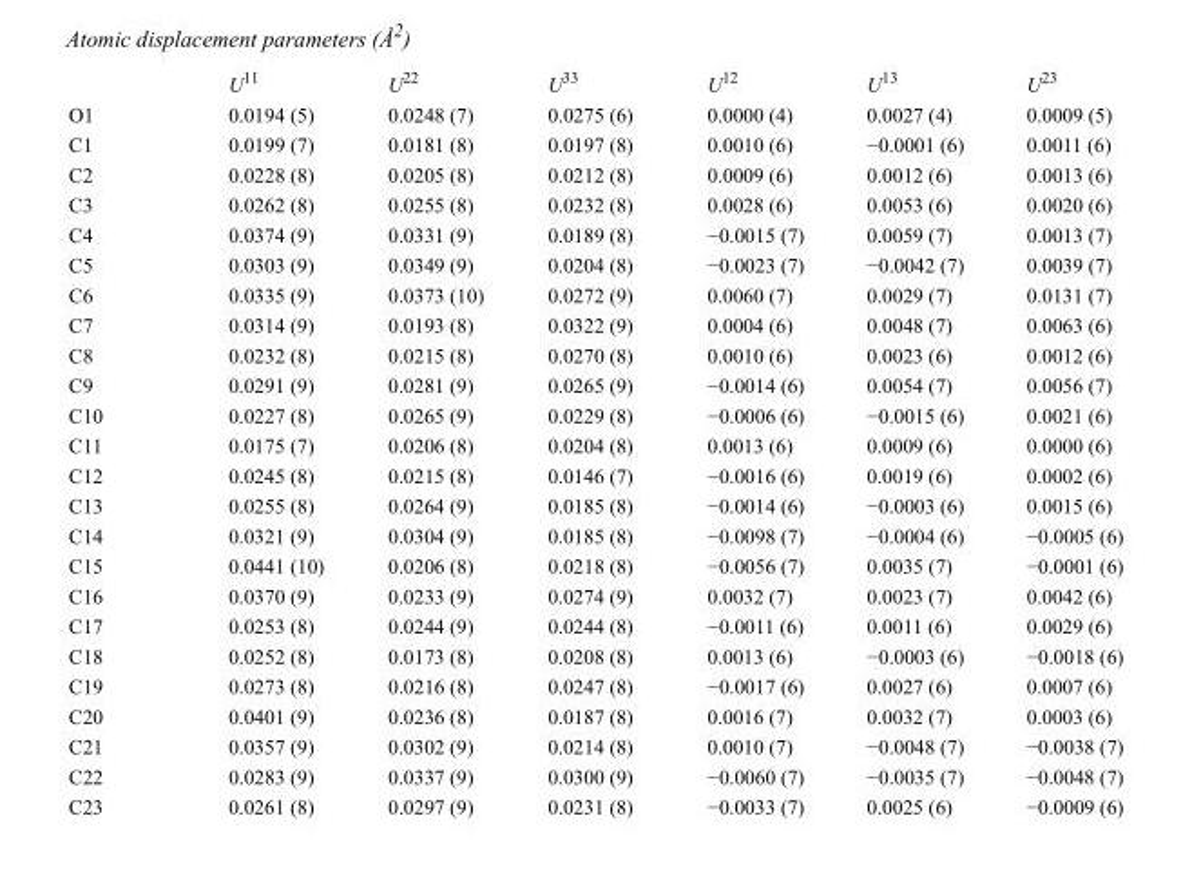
<table><thead><tr><td></td><td>U<sup>11</sup></td><td>U<sup>22</sup></td><td>U<sup>33</sup></td><td>U<sup>12</sup></td><td>U<sup>13</sup></td><td>U<sup>23</sup></td></tr></thead><tbody><tr><td>O1</td><td>0.0194 (5)</td><td>0.0248 (7)</td><td>0.0275 (6)</td><td>0.0000 (4)</td><td>0.0027 (4)</td><td>0.0009 (5)</td></tr><tr><td>C1</td><td>0.0199 (7)</td><td>0.0181 (8)</td><td>0.0197 (8)</td><td>0.0010 (6)</td><td>−0.0001 (6)</td><td>0.0011 (6)</td></tr><tr><td>C2</td><td>0.0228 (8)</td><td>0.0205 (8)</td><td>0.0212 (8)</td><td>0.0009 (6)</td><td>0.0012 (6)</td><td>0.0013 (6)</td></tr><tr><td>C3</td><td>0.0262 (8)</td><td>0.0255 (8)</td><td>0.0232 (8)</td><td>0.0028 (6)</td><td>0.0053 (6)</td><td>0.0020 (6)</td></tr><tr><td>C4</td><td>0.0374 (9)</td><td>0.0331 (9)</td><td>0.0189 (8)</td><td>−0.0015 (7)</td><td>0.0059 (7)</td><td>0.0013 (7)</td></tr><tr><td>C5</td><td>0.0303 (9)</td><td>0.0349 (9)</td><td>0.0204 (8)</td><td>−0.0023 (7)</td><td>−0.0042 (7)</td><td>0.0039 (7)</td></tr><tr><td>C6</td><td>0.0335 (9)</td><td>0.0373 (10)</td><td>0.0272 (9)</td><td>0.0060 (7)</td><td>0.0029 (7)</td><td>0.0131 (7)</td></tr><tr><td>C7</td><td>0.0314 (9)</td><td>0.0193 (8)</td><td>0.0322 (9)</td><td>0.0004 (6)</td><td>0.0048 (7)</td><td>0.0063 (6)</td></tr><tr><td>C8</td><td>0.0232 (8)</td><td>0.0215 (8)</td><td>0.0270 (8)</td><td>0.0010 (6)</td><td>0.0023 (6)</td><td>0.0012 (6)</td></tr><tr><td>C9</td><td>0.0291 (9)</td><td>0.0281 (9)</td><td>0.0265 (9)</td><td>−0.0014 (6)</td><td>0.0054 (7)</td><td>0.0056 (7)</td></tr><tr><td>C10</td><td>0.0227 (8)</td><td>0.0265 (9)</td><td>0.0229 (8)</td><td>−0.0006 (6)</td><td>−0.0015 (6)</td><td>0.0021 (6)</td></tr><tr><td>C11</td><td>0.0175 (7)</td><td>0.0206 (8)</td><td>0.0204 (8)</td><td>0.0013 (6)</td><td>0.0009 (6)</td><td>0.0000 (6)</td></tr><tr><td>C12</td><td>0.0245 (8)</td><td>0.0215 (8)</td><td>0.0146 (7)</td><td>−0.0016 (6)</td><td>0.0019 (6)</td><td>0.0002 (6)</td></tr><tr><td>C13</td><td>0.0255 (8)</td><td>0.0264 (9)</td><td>0.0185 (8)</td><td>−0.0014 (6)</td><td>−0.0003 (6)</td><td>0.0015 (6)</td></tr><tr><td>C14</td><td>0.0321 (9)</td><td>0.0304 (9)</td><td>0.0185 (8)</td><td>−0.0098 (7)</td><td>−0.0004 (6)</td><td>−0.0005 (6)</td></tr><tr><td>C15</td><td>0.0441 (10)</td><td>0.0206 (8)</td><td>0.0218 (8)</td><td>−0.0056 (7)</td><td>0.0035 (7)</td><td>−0.0001 (6)</td></tr><tr><td>C16</td><td>0.0370 (9)</td><td>0.0233 (9)</td><td>0.0274 (9)</td><td>0.0032 (7)</td><td>0.0023 (7)</td><td>0.0042 (6)</td></tr><tr><td>C17</td><td>0.0253 (8)</td><td>0.0244 (9)</td><td>0.0244 (8)</td><td>−0.0011 (6)</td><td>0.0011 (6)</td><td>0.0029 (6)</td></tr><tr><td>C18</td><td>0.0252 (8)</td><td>0.0173 (8)</td><td>0.0208 (8)</td><td>0.0013 (6)</td><td>−0.0003 (6)</td><td>−0.0018 (6)</td></tr><tr><td>C19</td><td>0.0273 (8)</td><td>0.0216 (8)</td><td>0.0247 (8)</td><td>−0.0017 (6)</td><td>0.0027 (6)</td><td>0.0007 (6)</td></tr><tr><td>C20</td><td>0.0401 (9)</td><td>0.0236 (8)</td><td>0.0187 (8)</td><td>0.0016 (7)</td><td>0.0032 (7)</td><td>0.0003 (6)</td></tr><tr><td>C21</td><td>0.0357 (9)</td><td>0.0302 (9)</td><td>0.0214 (8)</td><td>0.0010 (7)</td><td>−0.0048 (7)</td><td>−0.0038 (7)</td></tr><tr><td>C22</td><td>0.0283 (9)</td><td>0.0337 (9)</td><td>0.0300 (9)</td><td>−0.0060 (7)</td><td>−0.0035 (7)</td><td>−0.0048 (7)</td></tr><tr><td>C23</td><td>0.0261 (8)</td><td>0.0297 (9)</td><td>0.0231 (8)</td><td>−0.0033 (7)</td><td>0.0025 (6)</td><td>−0.0009 (6)</td></tr></tbody></table>